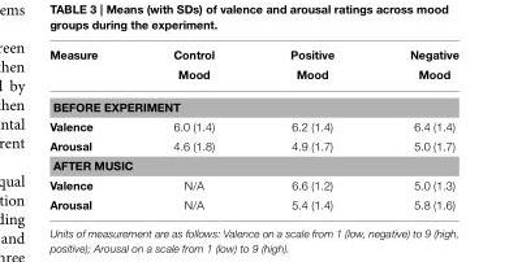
<table><thead><tr><td>Measure</td><td>Control Mood</td><td>Positive Mood</td><td>Negative Mood</td></tr></thead><tbody><tr><td colspan="4">BEFORE EXPERIMENT</td></tr><tr><td>Valence</td><td>6.0 (1.4)</td><td>6.2 (1.4)</td><td>6.4 (1.4)</td></tr><tr><td>Arousal</td><td>4.6 (1.8)</td><td>4.9 (1.7)</td><td>5.0 (1.7)</td></tr><tr><td colspan="4">AFTER MUSIC</td></tr><tr><td>Valence</td><td>N/A</td><td>6.6 (1.2)</td><td>5.0 (1.3)</td></tr><tr><td>Arousal</td><td>N/A</td><td>5.4 (1.4)</td><td>5.8 (1.6)</td></tr></tbody></table>